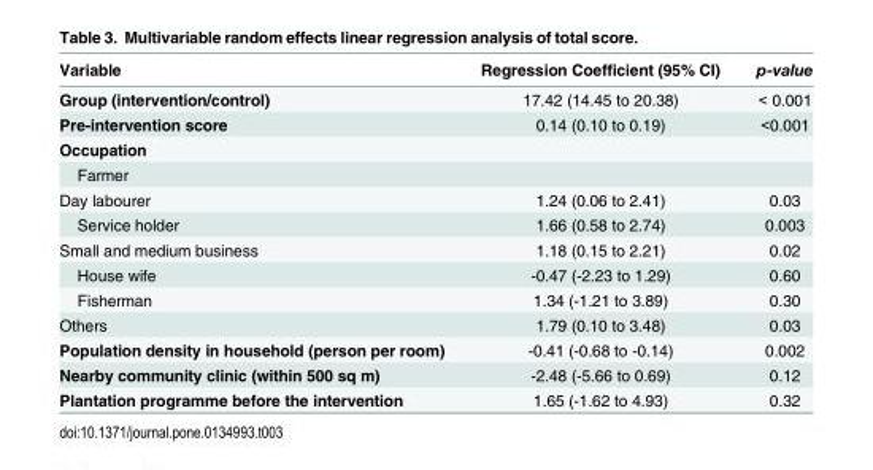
<table><thead><tr><td>Variable</td><td>Regression Coefficient (95% CI)</td><td>p-value</td></tr></thead><tbody><tr><td>Group (intervention/control)</td><td>17.42 (14.45 to 20.38)</td><td>&lt; 0.001</td></tr><tr><td>Pre-intervention score</td><td>0.14 (0.10 to 0.19)</td><td>&lt;0.001</td></tr><tr><td colspan="3">Occupation</td></tr><tr><td colspan="3">Farmer</td></tr><tr><td>Day labourer</td><td>1.24 (0.06 to 2.41)</td><td>0.03</td></tr><tr><td>Service holder</td><td>1.66 (0.58 to 2.74)</td><td>0.003</td></tr><tr><td>Small and medium business</td><td>1.18 (0.15 to 2.21)</td><td>0.02</td></tr><tr><td>House wife</td><td>-0.47 (-2.23 to 1.29)</td><td>0.60</td></tr><tr><td>Fisherman</td><td>1.34 (-1.21 to 3.89)</td><td>0.30</td></tr><tr><td>Others</td><td>1.79 (0.10 to 3.48)</td><td>0.03</td></tr><tr><td>Population density in household (person per room)</td><td>-0.41 (-0.68 to -0.14)</td><td>0.002</td></tr><tr><td>Nearby community clinic (within 500 sq m)</td><td>-2.48 (-5.66 to 0.69)</td><td>0.12</td></tr><tr><td>Plantation programme before the intervention</td><td>1.65 (-1.62 to 4.93)</td><td>0.32</td></tr></tbody></table>